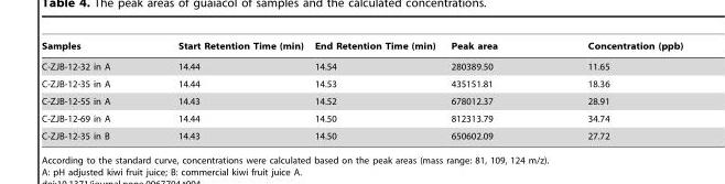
<table><thead><tr><td>Samples</td><td>Start Retention Time (min)</td><td>End Retention Time (min)</td><td>Peak area</td><td>Concentration (ppb)</td></tr></thead><tbody><tr><td>C-ZJB-12-32 in A</td><td>14.44</td><td>14.54</td><td>280389.50</td><td>11.65</td></tr><tr><td>C-ZJB-12-35 in A</td><td>14.44</td><td>14.53</td><td>435151.81</td><td>18.36</td></tr><tr><td>C-ZJB-12-55 in A</td><td>14.43</td><td>14.52</td><td>678012.37</td><td>28.91</td></tr><tr><td>C-ZJB-12-69 in A</td><td>14.44</td><td>14.50</td><td>812313.79</td><td>34.74</td></tr><tr><td>C-ZJB-12-35 in B</td><td>14.43</td><td>14.50</td><td>650602.09</td><td>27.72</td></tr></tbody></table>